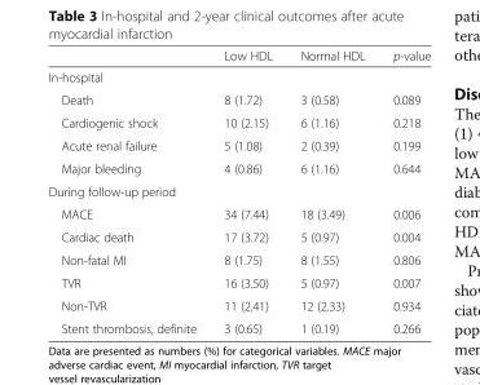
<table><thead><tr><td></td><td>Low HDL</td><td>Normal HDL</td><td>p-value</td></tr></thead><tbody><tr><td colspan="4">In-hospital</td></tr><tr><td>Death</td><td>8 (1.72)</td><td>3 (0.58)</td><td>0.089</td></tr><tr><td>Cardiogenic shock</td><td>10 (2.15)</td><td>6 (1.16)</td><td>0.218</td></tr><tr><td>Acute renal failure</td><td>5 (1.08)</td><td>2 (0.39)</td><td>0.199</td></tr><tr><td>Major bleeding</td><td>4 (0.86)</td><td>6 (1.16)</td><td>0.644</td></tr><tr><td colspan="4">During follow-up period</td></tr><tr><td>MACE</td><td>34 (7.44)</td><td>18 (3.49)</td><td>0.006</td></tr><tr><td>Cardiac death</td><td>17 (3.72)</td><td>5 (0.97)</td><td>0.004</td></tr><tr><td>Non-fatal MI</td><td>8 (1.75)</td><td>8 (1.55)</td><td>0.806</td></tr><tr><td>TVR</td><td>16 (3.50)</td><td>5 (0.97)</td><td>0.007</td></tr><tr><td>Non-TVR</td><td>11 (2.41)</td><td>12 (2.33)</td><td>0.934</td></tr><tr><td>Stent thrombosis, definite</td><td>3 (0.65)</td><td>1 (0.19)</td><td>0.266</td></tr></tbody></table>